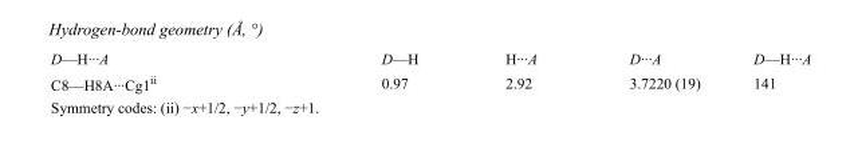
<table><tbody><tr><td>D—H···A</td><td>D—H</td><td>H···A</td><td>D···A</td><td>D—H···A</td></tr><tr><td>C8—H8A···Cg1<sup>ii</sup></td><td>0.97</td><td>2.92</td><td>3.7220 (19)</td><td>141</td></tr></tbody></table>